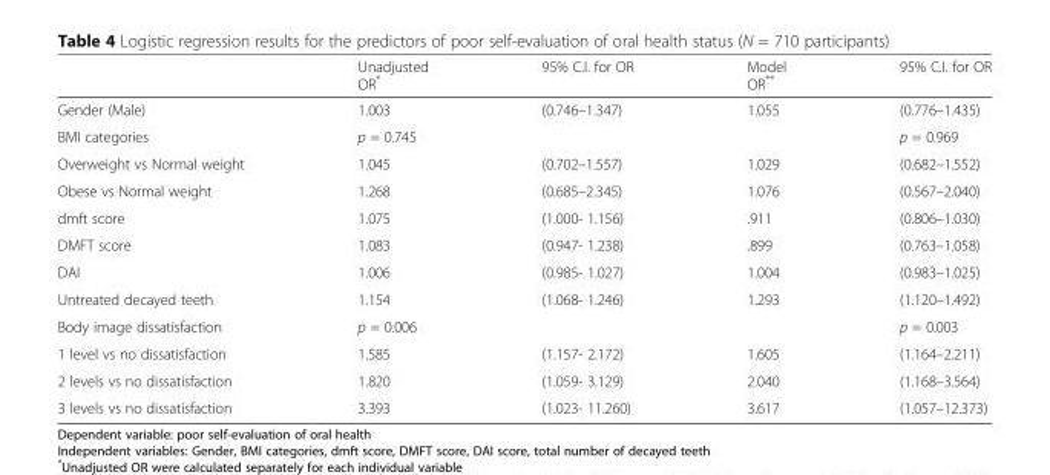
<table><thead><tr><td></td><td>Unadjusted OR*</td><td>95% C.I. for OR</td><td>Model OR**</td><td>95% C.I. for OR</td></tr></thead><tbody><tr><td>Gender (Male)</td><td>1.003</td><td>(0.746–1.347)</td><td>1.055</td><td>(0.776–1.435)</td></tr><tr><td>BMI categories</td><td>p = 0.745</td><td></td><td></td><td>p = 0.969</td></tr><tr><td>Overweight vs Normal weight</td><td>1.045</td><td>(0.702–1.557)</td><td>1.029</td><td>(0.682–1.552)</td></tr><tr><td>Obese vs Normal weight</td><td>1.268</td><td>(0.685–2.345)</td><td>1.076</td><td>(0.567–2.040)</td></tr><tr><td>dmft score</td><td>1.075</td><td>(1.000- 1.156)</td><td>.911</td><td>(0.806–1.030)</td></tr><tr><td>DMFT score</td><td>1.083</td><td>(0.947- 1.238)</td><td>.899</td><td>(0.763–1.058)</td></tr><tr><td>DAI</td><td>1.006</td><td>(0.985- 1.027)</td><td>1.004</td><td>(0.983–1.025)</td></tr><tr><td>Untreated decayed teeth</td><td>1.154</td><td>(1.068- 1.246)</td><td>1.293</td><td>(1.120–1.492)</td></tr><tr><td>Body image dissatisfaction</td><td>p = 0.006</td><td></td><td></td><td>p = 0.003</td></tr><tr><td>1 level vs no dissatisfaction</td><td>1.585</td><td>(1.157- 2.172)</td><td>1.605</td><td>(1.164–2.211)</td></tr><tr><td>2 levels vs no dissatisfaction</td><td>1.820</td><td>(1.059- 3.129)</td><td>2.040</td><td>(1.168–3.564)</td></tr><tr><td>3 levels vs no dissatisfaction</td><td>3.393</td><td>(1.023- 11.260)</td><td>3.617</td><td>(1.057–12.373)</td></tr></tbody></table>